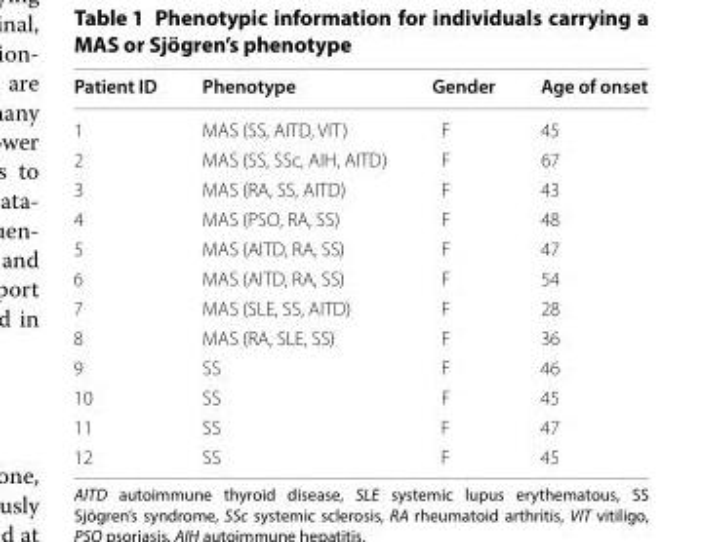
<table><thead><tr><td>Patient ID</td><td>Phenotype</td><td>Gender</td><td>Age of onset</td></tr></thead><tbody><tr><td>1</td><td>MAS (SS, AITD, VIT)</td><td>F</td><td>45</td></tr><tr><td>2</td><td>MAS (SS, SSc, AIH, AITD)</td><td>F</td><td>67</td></tr><tr><td>3</td><td>MAS (RA, SS, AITD)</td><td>F</td><td>43</td></tr><tr><td>4</td><td>MAS (PSO, RA, SS)</td><td>F</td><td>48</td></tr><tr><td>5</td><td>MAS (AITD, RA, SS)</td><td>F</td><td>47</td></tr><tr><td>6</td><td>MAS (AITD, RA, SS)</td><td>F</td><td>54</td></tr><tr><td>7</td><td>MAS (SLE, SS, AITD)</td><td>F</td><td>28</td></tr><tr><td>8</td><td>MAS (RA, SLE, SS)</td><td>F</td><td>36</td></tr><tr><td>9</td><td>SS</td><td>F</td><td>46</td></tr><tr><td>10</td><td>SS</td><td>F</td><td>45</td></tr><tr><td>11</td><td>SS</td><td>F</td><td>47</td></tr><tr><td>12</td><td>SS</td><td>F</td><td>45</td></tr></tbody></table>